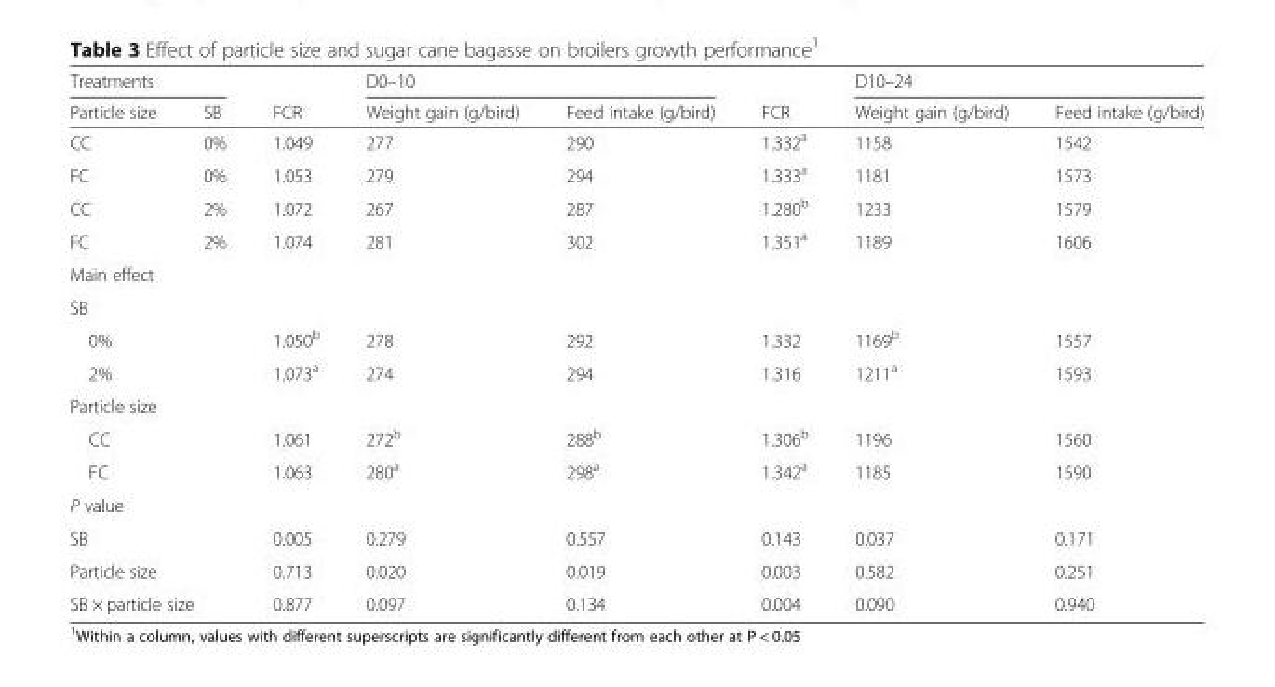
<table><thead><tr><td colspan="2">Treatments</td><td rowspan="2">FCR</td><td colspan="2">D0–10</td><td rowspan="2">FCR</td><td colspan="2">D10–24</td></tr><tr><td>Particle size</td><td>SB</td><td>Weight gain (g/bird)</td><td>Feed intake (g/bird)</td><td>Weight gain (g/bird)</td><td>Feed intake (g/bird)</td></tr></thead><tbody><tr><td>CC</td><td>0%</td><td>1.049</td><td>277</td><td>290</td><td>1.332<sup>a</sup></td><td>1158</td><td>1542</td></tr><tr><td>FC</td><td>0%</td><td>1.053</td><td>279</td><td>294</td><td>1.333<sup>a</sup></td><td>1181</td><td>1573</td></tr><tr><td>CC</td><td>2%</td><td>1.072</td><td>267</td><td>287</td><td>1.280<sup>b</sup></td><td>1233</td><td>1579</td></tr><tr><td>FC</td><td>2%</td><td>1.074</td><td>281</td><td>302</td><td>1.351<sup>a</sup></td><td>1189</td><td>1606</td></tr><tr><td colspan="8">Main effect</td></tr><tr><td colspan="8">SB</td></tr><tr><td colspan="2">0%</td><td>1.050<sup>b</sup></td><td>278</td><td>292</td><td>1.332</td><td>1169<sup>b</sup></td><td>1557</td></tr><tr><td colspan="2">2%</td><td>1.073<sup>a</sup></td><td>274</td><td>294</td><td>1.316</td><td>1211<sup>a</sup></td><td>1593</td></tr><tr><td colspan="8">Particle size</td></tr><tr><td colspan="2">CC</td><td>1.061</td><td>272<sup>b</sup></td><td>288<sup>b</sup></td><td>1.306<sup>b</sup></td><td>1196</td><td>1560</td></tr><tr><td colspan="2">FC</td><td>1.063</td><td>280<sup>a</sup></td><td>298<sup>a</sup></td><td>1.342<sup>a</sup></td><td>1185</td><td>1590</td></tr><tr><td colspan="8">P value</td></tr><tr><td colspan="2">SB</td><td>0.005</td><td>0.279</td><td>0.557</td><td>0.143</td><td>0.037</td><td>0.171</td></tr><tr><td colspan="2">Particle size</td><td>0.713</td><td>0.020</td><td>0.019</td><td>0.003</td><td>0.582</td><td>0.251</td></tr><tr><td colspan="2">SB × particle size</td><td>0.877</td><td>0.097</td><td>0.134</td><td>0.004</td><td>0.090</td><td>0.940</td></tr></tbody></table>